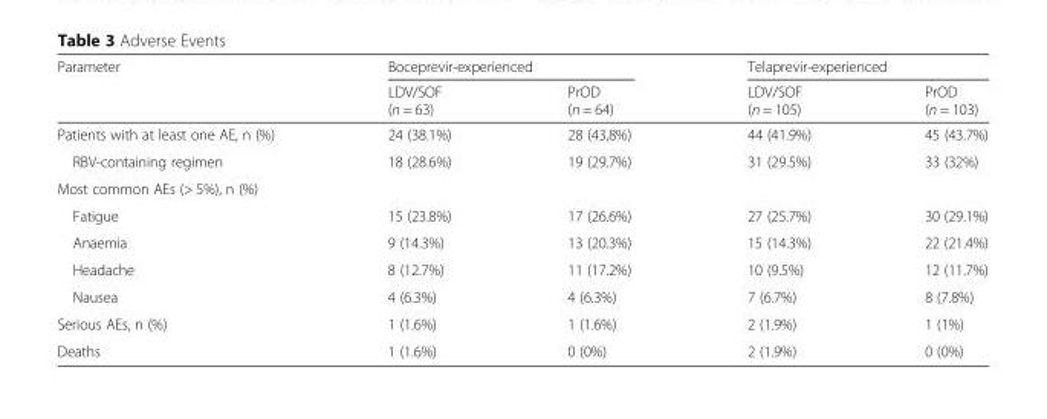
<table><thead><tr><td rowspan="2">Parameter</td><td colspan="2">Boceprevir-experienced</td><td colspan="2">Telaprevir-experienced</td></tr><tr><td>LDV/SOF (n = 63)</td><td>PrOD (n = 64)</td><td>LDV/SOF (n = 105)</td><td>PrOD (n = 103)</td></tr></thead><tbody><tr><td>Patients with at least one AE, n (%)</td><td>24 (38.1%)</td><td>28 (43,8%)</td><td>44 (41.9%)</td><td>45 (43.7%)</td></tr><tr><td>RBV-containing regimen</td><td>18 (28.6%)</td><td>19 (29.7%)</td><td>31 (29.5%)</td><td>33 (32%)</td></tr><tr><td colspan="5">Most common AEs (&gt; 5%), n (%)</td></tr><tr><td>Fatigue</td><td>15 (23.8%)</td><td>17 (26.6%)</td><td>27 (25.7%)</td><td>30 (29.1%)</td></tr><tr><td>Anaemia</td><td>9 (14.3%)</td><td>13 (20.3%)</td><td>15 (14.3%)</td><td>22 (21.4%)</td></tr><tr><td>Headache</td><td>8 (12.7%)</td><td>11 (17.2%)</td><td>10 (9.5%)</td><td>12 (11.7%)</td></tr><tr><td>Nausea</td><td>4 (6.3%)</td><td>4 (6.3%)</td><td>7 (6.7%)</td><td>8 (7.8%)</td></tr><tr><td>Serious AEs, n (%)</td><td>1 (1.6%)</td><td>1 (1.6%)</td><td>2 (1.9%)</td><td>1 (1%)</td></tr><tr><td>Deaths</td><td>1 (1.6%)</td><td>0 (0%)</td><td>2 (1.9%)</td><td>0 (0%)</td></tr></tbody></table>